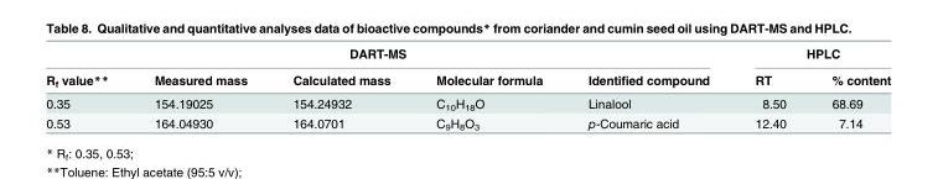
<table><thead><tr><td colspan="5">DART-MS</td><td colspan="2">HPLC</td></tr><tr><td>R<sub>f</sub> value**</td><td>Measured mass</td><td>Calculated mass</td><td>Molecular formula</td><td>Identified compound</td><td>RT</td><td>% content</td></tr></thead><tbody><tr><td>0.35</td><td>154.19025</td><td>154.24932</td><td>C<sub>10</sub>H<sub>18</sub>O</td><td>Linalool</td><td>8.50</td><td>68.69</td></tr><tr><td>0.53</td><td>164.04930</td><td>164.0701</td><td>C<sub>9</sub>H<sub>8</sub>O<sub>3</sub></td><td>p-Coumaric acid</td><td>12.40</td><td>7.14</td></tr></tbody></table>